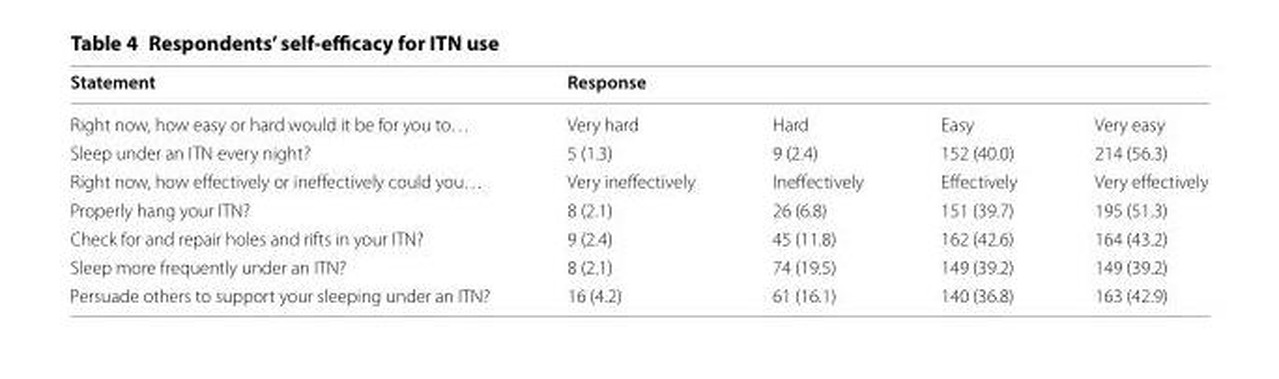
<table><thead><tr><td rowspan="2">Statement Right now, how easy or hard would it be for you to…</td><td colspan="4">Response</td></tr><tr><td>Very hard</td><td>Hard</td><td>Easy</td><td>Very easy</td></tr></thead><tbody><tr><td>Sleep under an ITN every night?</td><td>5 (1.3)</td><td>9 (2.4)</td><td>152 (40.0)</td><td>214 (56.3)</td></tr><tr><td>Right now, how effectively or ineffectively could you…</td><td>Very ineffectively</td><td>Ineffectively</td><td>Effectively</td><td>Very effectively</td></tr><tr><td>Properly hang your ITN?</td><td>8 (2.1)</td><td>26 (6.8)</td><td>151 (39.7)</td><td>195 (51.3)</td></tr><tr><td>Check for and repair holes and rifts in your ITN?</td><td>9 (2.4)</td><td>45 (11.8)</td><td>162 (42.6)</td><td>164 (43.2)</td></tr><tr><td>Sleep more frequently under an ITN?</td><td>8 (2.1)</td><td>74 (19.5)</td><td>149 (39.2)</td><td>149 (39.2)</td></tr><tr><td>Persuade others to support your sleeping under an ITN?</td><td>16 (4.2)</td><td>61 (16.1)</td><td>140 (36.8)</td><td>163 (42.9)</td></tr></tbody></table>